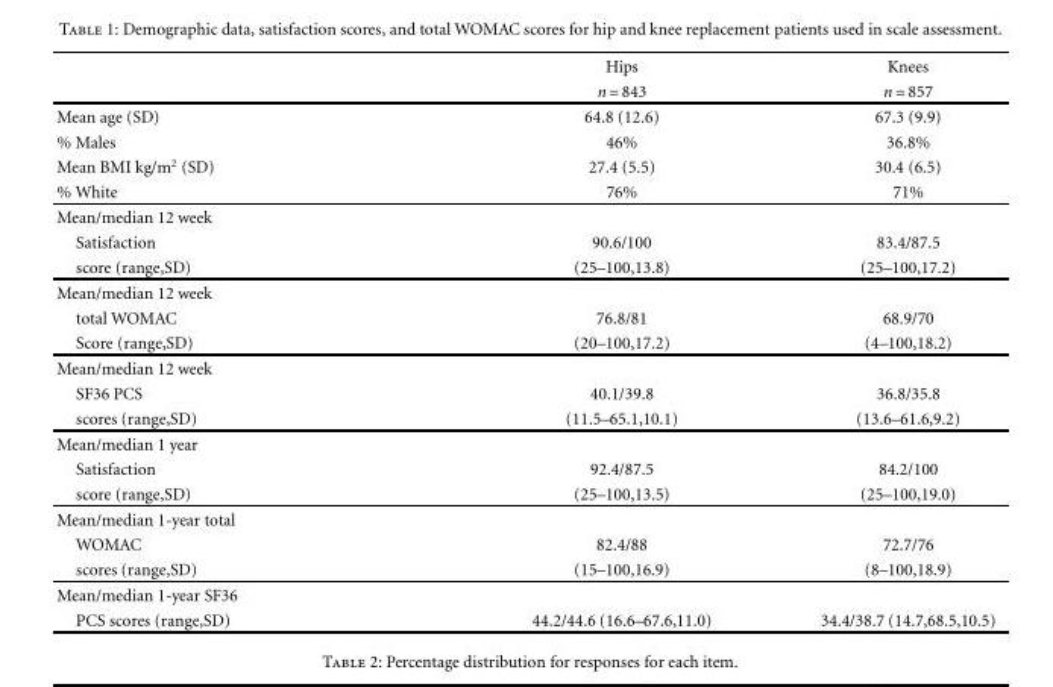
<table><thead><tr><td rowspan="2"></td><td rowspan="2">Hips n = 843</td><td rowspan="2">Knees n = 857</td></tr><tr></tr></thead><tbody><tr><td>Mean age (SD)</td><td>64.8 (12.6)</td><td>67.3 (9.9)</td></tr><tr><td>% Males</td><td>46%</td><td>36.8%</td></tr><tr><td>Mean BMI kg/m<sup>2</sup> (SD)</td><td>27.4 (5.5)</td><td>30.4 (6.5)</td></tr><tr><td>% White</td><td>76%</td><td>71%</td></tr><tr><td colspan="3">Mean/median 12 week</td></tr><tr><td>Satisfaction</td><td>90.6/100</td><td>83.4/87.5</td></tr><tr><td>score (range,SD)</td><td>(25–100,13.8)</td><td>(25–100,17.2)</td></tr><tr><td colspan="3">Mean/median 12 week</td></tr><tr><td>total WOMAC</td><td>76.8/81</td><td>68.9/70</td></tr><tr><td>Score (range,SD)</td><td>(20–100,17.2)</td><td>(4–100,18.2)</td></tr><tr><td colspan="3">Mean/median 12 week</td></tr><tr><td>SF36 PCS</td><td>40.1/39.8</td><td>36.8/35.8</td></tr><tr><td>scores (range,SD)</td><td>(11.5–65.1,10.1)</td><td>(13.6–61.6,9.2)</td></tr><tr><td colspan="3">Mean/median 1 year</td></tr><tr><td>Satisfaction</td><td>92.4/87.5</td><td>84.2/100</td></tr><tr><td>score (range,SD)</td><td>(25–100,13.5)</td><td>(25–100,19.0)</td></tr><tr><td colspan="3">Mean/median 1-year total</td></tr><tr><td>WOMAC</td><td>82.4/88</td><td>72.7/76</td></tr><tr><td>scores (range,SD)</td><td>(15–100,16.9)</td><td>(8–100,18.9)</td></tr><tr><td colspan="3">Mean/median 1-year SF36</td></tr><tr><td>PCS scores (range,SD)</td><td>44.2/44.6 (16.6–67.6,11.0)</td><td>34.4/38.7 (14.7,68.5,10.5)</td></tr></tbody></table>